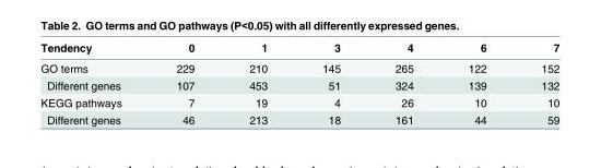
<table><tbody><tr><td>Tendency</td><td>0</td><td>1</td><td>3</td><td>4</td><td>6</td><td>7</td></tr><tr><td>GO terms</td><td>229</td><td>210</td><td>145</td><td>265</td><td>122</td><td>152</td></tr><tr><td>Different genes</td><td>107</td><td>453</td><td>51</td><td>324</td><td>139</td><td>132</td></tr><tr><td>KEGG pathways</td><td>7</td><td>19</td><td>4</td><td>26</td><td>10</td><td>10</td></tr><tr><td>Different genes</td><td>46</td><td>213</td><td>18</td><td>161</td><td>44</td><td>59</td></tr></tbody></table>